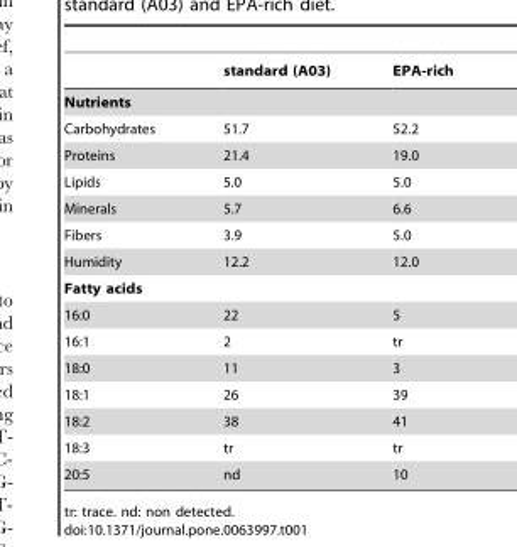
<table><thead><tr><td></td><td>standard (A03)</td><td>EPA-rich</td></tr></thead><tbody><tr><td colspan="3">Nutrients</td></tr><tr><td>Carbohydrates</td><td>51.7</td><td>52.2</td></tr><tr><td>Proteins</td><td>21.4</td><td>19.0</td></tr><tr><td>Lipids</td><td>5.0</td><td>5.0</td></tr><tr><td>Minerals</td><td>5.7</td><td>6.6</td></tr><tr><td>Fibers</td><td>3.9</td><td>5.0</td></tr><tr><td>Humidity</td><td>12.2</td><td>12.0</td></tr><tr><td colspan="3">Fatty acids</td></tr><tr><td>16:0</td><td>22</td><td>5</td></tr><tr><td>16:1</td><td>2</td><td>tr</td></tr><tr><td>18:0</td><td>11</td><td>3</td></tr><tr><td>18:1</td><td>26</td><td>39</td></tr><tr><td>18:2</td><td>38</td><td>41</td></tr><tr><td>18:3</td><td>tr</td><td>tr</td></tr><tr><td>20:5</td><td>nd</td><td>10</td></tr></tbody></table>